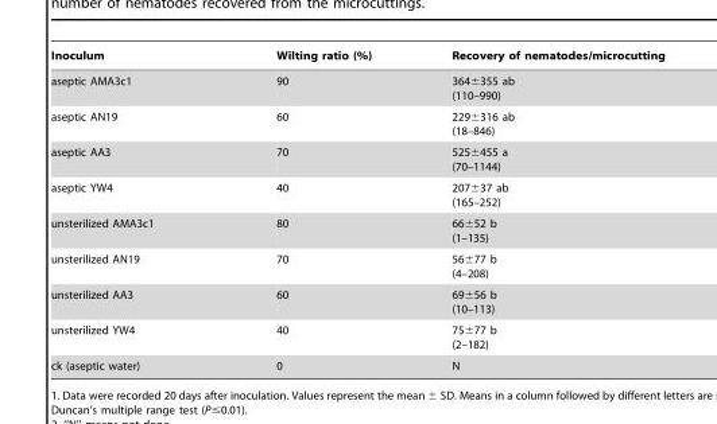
<table><thead><tr><td>Inoculum</td><td>Wilting ratio (%)</td><td>Recovery of nematodes/microcutting</td></tr></thead><tbody><tr><td>aseptic AMA3c1</td><td>90</td><td>364±355 ab (110–990)</td></tr><tr><td>aseptic AN19</td><td>60</td><td>229±316 ab (18–846)</td></tr><tr><td>aseptic AA3</td><td>70</td><td>525±455 a (70–1144)</td></tr><tr><td>aseptic YW4</td><td>40</td><td>207±37 ab (165–252)</td></tr><tr><td>unsterilized AMA3c1</td><td>80</td><td>66±52 b (1–135)</td></tr><tr><td>unsterilized AN19</td><td>70</td><td>56±77 b (4–208)</td></tr><tr><td>unsterilized AA3</td><td>60</td><td>69±56 b (10–113)</td></tr><tr><td>unsterilized YW4</td><td>40</td><td>75±77 b (2–182)</td></tr><tr><td>ck (aseptic water)</td><td>0</td><td>N</td></tr></tbody></table>